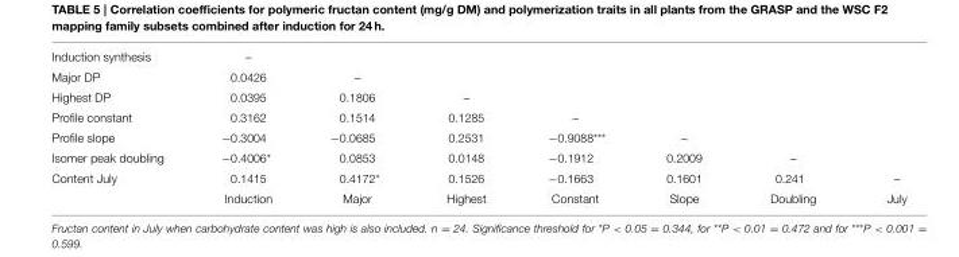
<table><tbody><tr><td>Induction synthesis</td><td>–</td><td></td><td></td><td></td><td></td><td></td><td></td></tr><tr><td>Major DP</td><td>0.0426</td><td>–</td><td></td><td></td><td></td><td></td><td></td></tr><tr><td>Highest DP</td><td>0.0395</td><td>0.1806</td><td>–</td><td></td><td></td><td></td><td></td></tr><tr><td>Profile constant</td><td>0.3162</td><td>0.1514</td><td>0.1285</td><td>–</td><td></td><td></td><td></td></tr><tr><td>Profile slope</td><td>−0.3004</td><td>−0.0685</td><td>0.2531</td><td>−0.9088***</td><td>–</td><td></td><td></td></tr><tr><td>Isomer peak doubling</td><td>−0.4006*</td><td>0.0853</td><td>0.0148</td><td>−0.1912</td><td>0.2009</td><td>–</td><td></td></tr><tr><td rowspan="2">Content July</td><td>0.1415</td><td>0.4172*</td><td>0.1526</td><td>−0.1663</td><td>0.1601</td><td>0.241</td><td>–</td></tr><tr><td>Induction</td><td>Major</td><td>Highest</td><td>Constant</td><td>Slope</td><td>Doubling</td><td>July</td></tr></tbody></table>